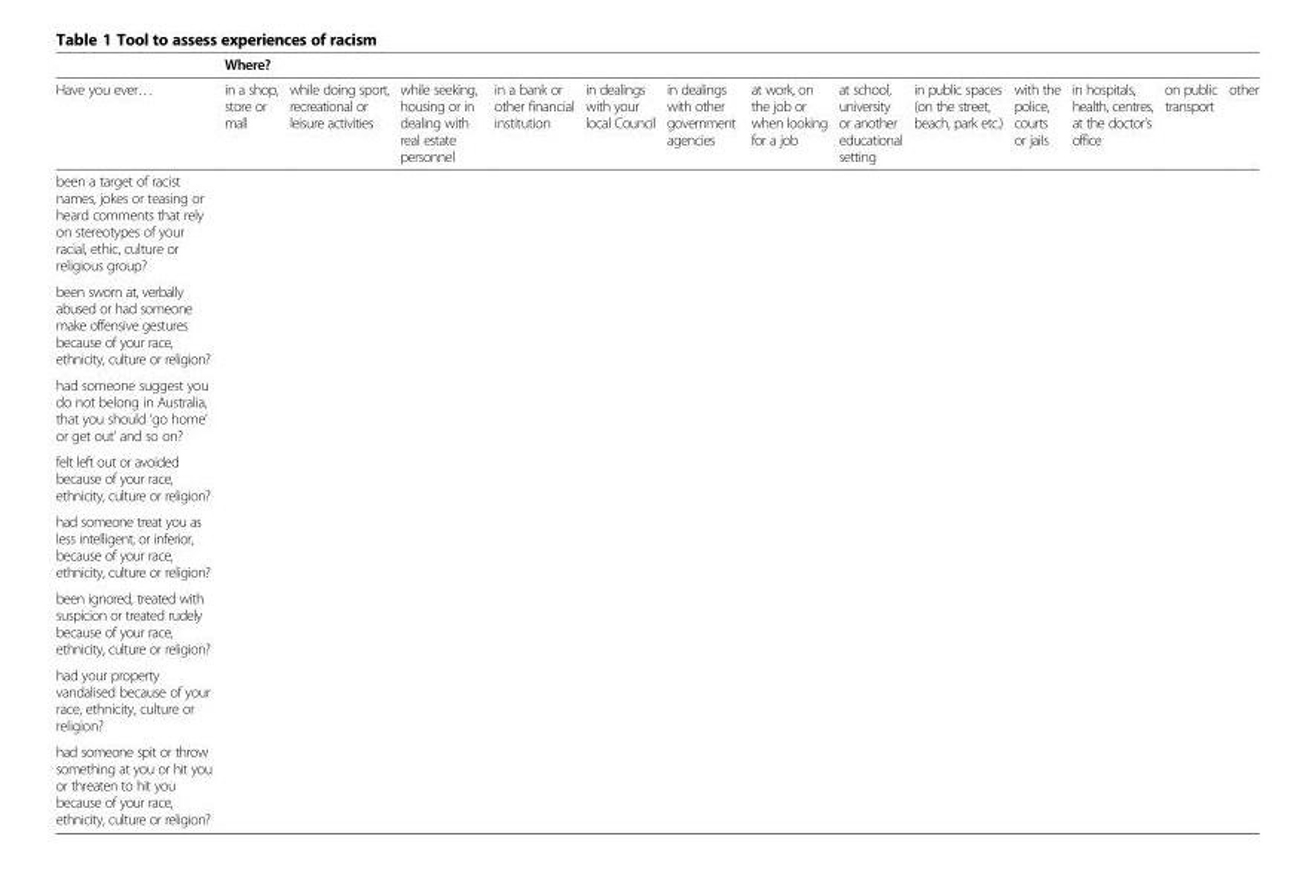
<table><thead><tr><td rowspan="2">Have you ever…</td><td colspan="13">Where?</td></tr><tr><td>in a shop, store or mall</td><td>while doing sport, recreational or leisure activities</td><td>while seeking, housing or in dealing with real estate personnel</td><td>in a bank or other financial institution</td><td>in dealings with your local Council</td><td>in dealings with other government agencies</td><td>at work, on the job or when looking for a job</td><td>at school, university or another educational setting</td><td>in public spaces (on the street, beach, park etc.)</td><td>with the police, courts or jails</td><td>in hospitals, health, centres, at the doctor’s office</td><td>on public transport</td><td>other</td></tr></thead><tbody><tr><td colspan="14">been a target of racist names, jokes or teasing or heard comments that rely on stereotypes of your racial, ethic, culture or religious group?</td></tr><tr><td colspan="14">been sworn at, verbally abused or had someone make offensive gestures because of your race, ethnicity, culture or religion?</td></tr><tr><td colspan="14">had someone suggest you do not belong in Australia, that you should ‘go home’ or get out’ and so on?</td></tr><tr><td colspan="14">felt left out or avoided because of your race, ethnicity, culture or religion?</td></tr><tr><td colspan="14">had someone treat you as less intelligent, or inferior, because of your race, ethnicity, culture or religion?</td></tr><tr><td colspan="14">been ignored, treated with suspicion or treated rudely because of your race, ethnicity, culture or religion?</td></tr><tr><td colspan="14">had your property vandalised because of your race, ethnicity, culture or religion?</td></tr><tr><td>had someone spit or throw something at you or hit you or threaten to hit you because of your race, ethnicity, culture or religion?</td><td></td><td></td><td></td><td></td><td></td><td></td><td></td><td></td><td></td><td></td><td></td><td></td><td></td></tr></tbody></table>